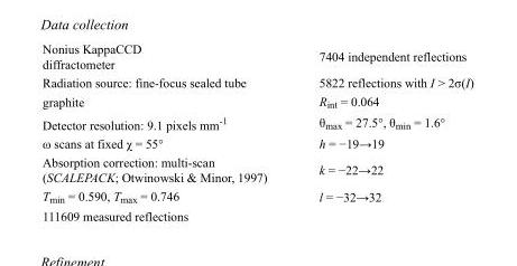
<table><tbody><tr><td>Nonius KappaCCD diffractometer</td><td>7404 independent reflections</td></tr><tr><td>Radiation source: fine-focus sealed tube</td><td>5822 reflections with I &gt; 2σ(I)</td></tr><tr><td>graphite</td><td>R<sub>int</sub> = 0.064</td></tr><tr><td>Detector resolution: 9.1 pixels mm<sup>-1</sup></td><td>θ<sub>max</sub> = 27.5°, θ<sub>min</sub> = 1.6°</td></tr><tr><td>ω scans at fixed χ = 55°</td><td>h = −19→19</td></tr><tr><td>Absorption correction: multi-scan (SCALEPACK; Otwinowski &amp; Minor, 1997)</td><td>k = −22→22</td></tr><tr><td>T<sub>min</sub> = 0.590, T<sub>max</sub> = 0.746</td><td>l = −32→32</td></tr><tr><td>111609 measured reflections</td><td></td></tr></tbody></table>